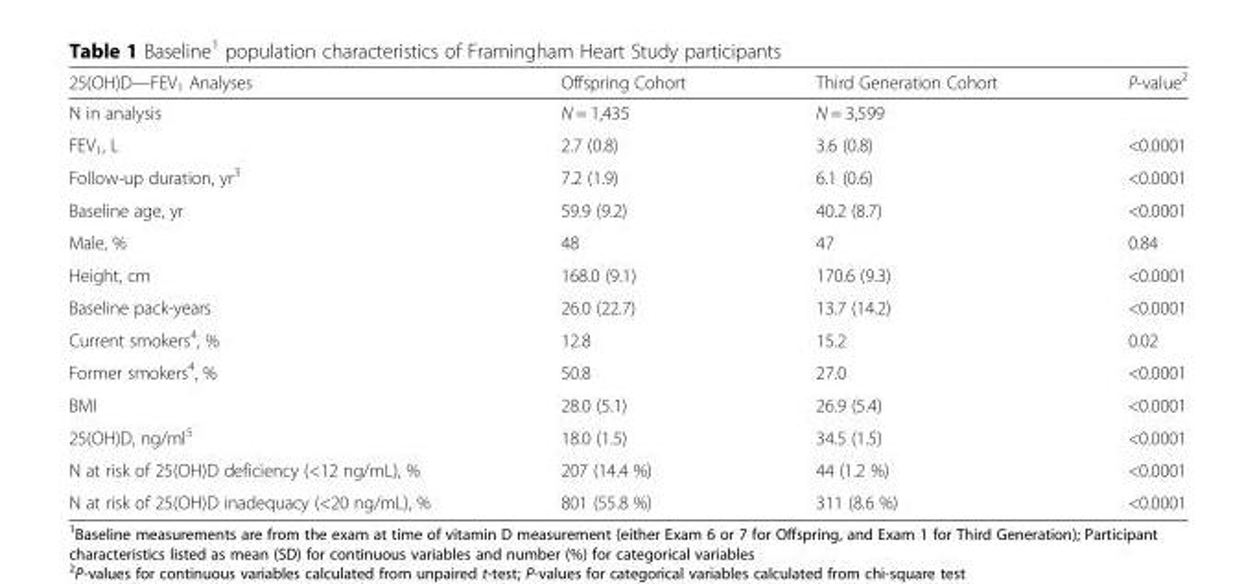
<table><thead><tr><td>25(OH)D—FEV<sub>1</sub> Analyses</td><td>Offspring Cohort</td><td>Third Generation Cohort</td><td>P-value<sup>2</sup></td></tr></thead><tbody><tr><td>N in analysis</td><td>N = 1,435</td><td>N = 3,599</td><td></td></tr><tr><td>FEV<sub>1</sub>, L</td><td>2.7 (0.8)</td><td>3.6 (0.8)</td><td>&lt;0.0001</td></tr><tr><td>Follow-up duration, yr<sup>3</sup></td><td>7.2 (1.9)</td><td>6.1 (0.6)</td><td>&lt;0.0001</td></tr><tr><td>Baseline age, yr</td><td>59.9 (9.2)</td><td>40.2 (8.7)</td><td>&lt;0.0001</td></tr><tr><td>Male, %</td><td>48</td><td>47</td><td>0.84</td></tr><tr><td>Height, cm</td><td>168.0 (9.1)</td><td>170.6 (9.3)</td><td>&lt;0.0001</td></tr><tr><td>Baseline pack-years</td><td>26.0 (22.7)</td><td>13.7 (14.2)</td><td>&lt;0.0001</td></tr><tr><td>Current smokers<sup>4</sup>, %</td><td>12.8</td><td>15.2</td><td>0.02</td></tr><tr><td>Former smokers<sup>4</sup>, %</td><td>50.8</td><td>27.0</td><td>&lt;0.0001</td></tr><tr><td>BMI</td><td>28.0 (5.1)</td><td>26.9 (5.4)</td><td>&lt;0.0001</td></tr><tr><td>25(OH)D, ng/ml<sup>5</sup></td><td>18.0 (1.5)</td><td>34.5 (1.5)</td><td>&lt;0.0001</td></tr><tr><td>N at risk of 25(OH)D deficiency (&lt;12 ng/mL), %</td><td>207 (14.4 %)</td><td>44 (1.2 %)</td><td>&lt;0.0001</td></tr><tr><td>N at risk of 25(OH)D inadequacy (&lt;20 ng/mL), %</td><td>801 (55.8 %)</td><td>311 (8.6 %)</td><td>&lt;0.0001</td></tr></tbody></table>